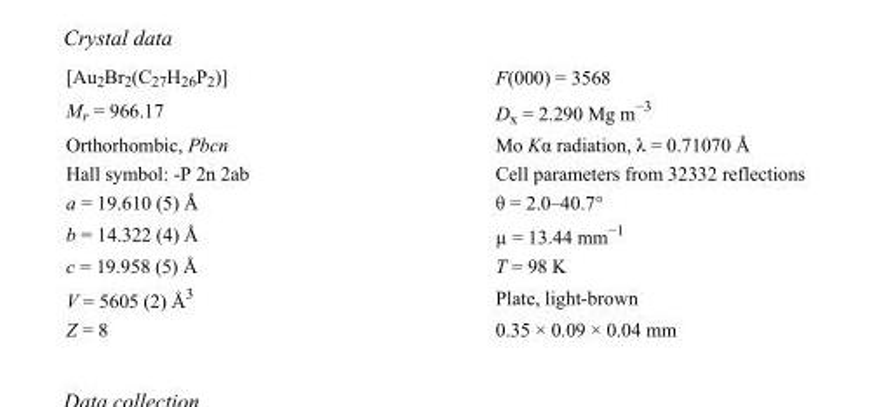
<table><tbody><tr><td>[Au<sub>2</sub>Br<sub>2</sub>(C<sub>27</sub>H<sub>26</sub>P<sub>2</sub>)]</td><td>F(000) = 3568</td></tr><tr><td>M<sub>r</sub> = 966.17</td><td>D<sub>x</sub> = 2.290 Mg m<sup>−3</sup></td></tr><tr><td>Orthorhombic, Pbcn</td><td>Mo Kα radiation, λ = 0.71070 Å</td></tr><tr><td>Hall symbol: -P 2n 2ab</td><td>Cell parameters from 32332 reflections</td></tr><tr><td>a = 19.610 (5) Å</td><td>θ = 2.0–40.7°</td></tr><tr><td>b = 14.322 (4) Å</td><td>µ = 13.44 mm<sup>−1</sup></td></tr><tr><td>c = 19.958 (5) Å</td><td>T = 98 K</td></tr><tr><td>V = 5605 (2) Å<sup>3</sup></td><td>Plate, light-brown</td></tr><tr><td>Z = 8</td><td>0.35 × 0.09 × 0.04 mm</td></tr></tbody></table>